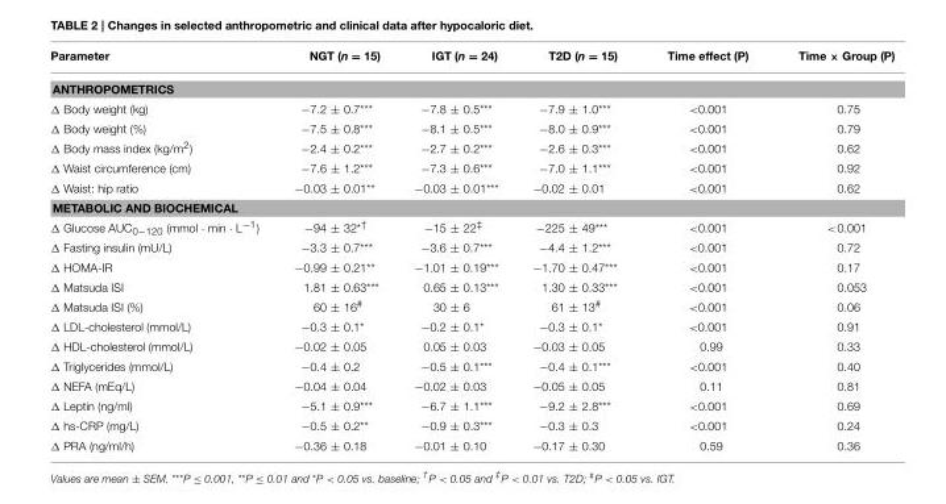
<table><thead><tr><td>Parameter</td><td>NGT (n = 15)</td><td>IGT (n = 24)</td><td>T2D (n = 15)</td><td>Time effect (P)</td><td>Time × Group (P)</td></tr></thead><tbody><tr><td colspan="6">ANTHROPOMETRICS</td></tr><tr><td>Δ Body weight (kg)</td><td>−7.2 ± 0.7***</td><td>−7.8 ± 0.5***</td><td>−7.9 ± 1.0***</td><td>&lt;0.001</td><td>0.75</td></tr><tr><td>Δ Body weight (%)</td><td>−7.5 ± 0.8***</td><td>−8.1 ± 0.5***</td><td>−8.0 ± 0.9***</td><td>&lt;0.001</td><td>0.79</td></tr><tr><td>Δ Body mass index (kg/m<sup>2</sup>)</td><td>−2.4 ± 0.2***</td><td>−2.7 ± 0.2***</td><td>−2.6 ± 0.3***</td><td>&lt;0.001</td><td>0.62</td></tr><tr><td>Δ Waist circumference (cm)</td><td>−7.6 ± 1.2***</td><td>−7.3 ± 0.6***</td><td>−7.0 ± 1.1***</td><td>&lt;0.001</td><td>0.92</td></tr><tr><td>Δ Waist: hip ratio</td><td>−0.03 ± 0.01**</td><td>−0.03 ± 0.01***</td><td>−0.02 ± 0.01</td><td>&lt;0.001</td><td>0.62</td></tr><tr><td colspan="6">METABOLIC AND BIOCHEMICAL</td></tr><tr><td>Δ Glucose AUC<sub>0−120</sub> (mmol · min · L<sup>−1</sup>)</td><td>−94 ± 32<sup>*†</sup></td><td>−15 ± 22<sup>‡</sup></td><td>−225 ± 49***</td><td>&lt;0.001</td><td>&lt;0.001</td></tr><tr><td>Δ Fasting insulin (mU/L)</td><td>−3.3 ± 0.7***</td><td>−3.6 ± 0.7***</td><td>−4.4 ± 1.2***</td><td>&lt;0.001</td><td>0.72</td></tr><tr><td>Δ HOMA-IR</td><td>−0.99 ± 0.21**</td><td>−1.01 ± 0.19***</td><td>−1.70 ± 0.47***</td><td>&lt;0.001</td><td>0.17</td></tr><tr><td>Δ Matsuda ISI</td><td>1.81 ± 0.63***</td><td>0.65 ± 0.13***</td><td>1.30 ± 0.33***</td><td>&lt;0.001</td><td>0.053</td></tr><tr><td>Δ Matsuda ISI (%)</td><td>60 ± 16<sup>#</sup></td><td>30 ± 6</td><td>61 ± 13<sup>#</sup></td><td>&lt;0.001</td><td>0.06</td></tr><tr><td>Δ LDL-cholesterol (mmol/L)</td><td>−0.3 ± 0.1*</td><td>−0.2 ± 0.1*</td><td>−0.3 ± 0.1*</td><td>&lt;0.001</td><td>0.91</td></tr><tr><td>Δ HDL-cholesterol (mmol/L)</td><td>−0.02 ± 0.05</td><td>0.05 ± 0.03</td><td>−0.03 ± 0.05</td><td>0.99</td><td>0.33</td></tr><tr><td>Δ Triglycerides (mmol/L)</td><td>−0.4 ± 0.2</td><td>−0.5 ± 0.1***</td><td>−0.4 ± 0.1***</td><td>&lt;0.001</td><td>0.40</td></tr><tr><td>Δ NEFA (mEq/L)</td><td>−0.04 ± 0.04</td><td>−0.02 ± 0.03</td><td>−0.05 ± 0.05</td><td>0.11</td><td>0.81</td></tr><tr><td>Δ Leptin (ng/ml)</td><td>−5.1 ± 0.9***</td><td>−6.7 ± 1.1***</td><td>−9.2 ± 2.8***</td><td>&lt;0.001</td><td>0.69</td></tr><tr><td>Δ hs-CRP (mg/L)</td><td>−0.5 ± 0.2**</td><td>−0.9 ± 0.3***</td><td>−0.3 ± 0.3</td><td>&lt;0.001</td><td>0.24</td></tr><tr><td>Δ PRA (ng/ml/h)</td><td>−0.36 ± 0.18</td><td>−0.01 ± 0.10</td><td>−0.17 ± 0.30</td><td>0.59</td><td>0.36</td></tr></tbody></table>